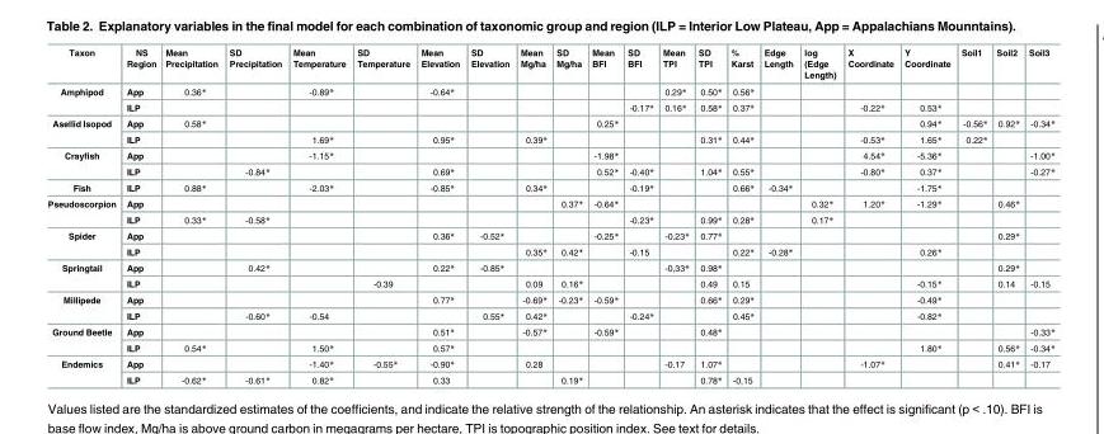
<table><thead><tr><td>Taxon</td><td>NS Region</td><td>Mean Precipitation</td><td>SD Precipitation</td><td>Mean Temperature</td><td>SD Temperature</td><td>Mean Elevation</td><td>SD Elevation</td><td>Mean Mg/ha</td><td>SD Mg/ha</td><td>Mean BFI</td><td>SD BFI</td><td>Mean TPI</td><td>SD TPI</td><td>% Karst</td><td>Edge Length</td><td>log (Edge Length)</td><td>X Coordinate</td><td>Y Coordinate</td><td>Soil1</td><td>Soil2</td><td>Soil3</td></tr></thead><tbody><tr><td rowspan="2">Amphipod</td><td>App</td><td>0.36*</td><td></td><td>-0.89*</td><td></td><td>-0.64*</td><td></td><td></td><td></td><td></td><td></td><td>0.29*</td><td>0.50*</td><td>0.56*</td><td></td><td></td><td></td><td></td><td></td><td></td><td></td></tr><tr><td>ILP</td><td></td><td></td><td></td><td></td><td></td><td></td><td></td><td></td><td></td><td>-0.17*</td><td>0.16*</td><td>0.58*</td><td>0.37*</td><td></td><td></td><td>-0.22*</td><td>0.53*</td><td></td><td></td><td></td></tr><tr><td rowspan="2">Asellid Isopod</td><td>App</td><td>0.58*</td><td></td><td></td><td></td><td></td><td></td><td></td><td></td><td>0.25*</td><td></td><td></td><td></td><td></td><td></td><td></td><td></td><td>0.94*</td><td>-0.56*</td><td>0.92*</td><td>-0.34*</td></tr><tr><td>ILP</td><td></td><td></td><td>1.69*</td><td></td><td>0.95*</td><td></td><td>0.39*</td><td></td><td></td><td></td><td></td><td>0.31*</td><td>0.44*</td><td></td><td></td><td>-0.53*</td><td>1.65*</td><td>0.22*</td><td></td><td></td></tr><tr><td rowspan="2">Crayfish</td><td>App</td><td></td><td></td><td>-1.15*</td><td></td><td></td><td></td><td></td><td></td><td>-1.98*</td><td></td><td></td><td></td><td></td><td></td><td></td><td>4.54*</td><td>-5.36*</td><td></td><td></td><td>-1.00*</td></tr><tr><td>ILP</td><td></td><td>-0.84*</td><td></td><td></td><td>0.69*</td><td></td><td></td><td></td><td>0.52*</td><td>-0.40*</td><td></td><td>1.04*</td><td>0.55*</td><td></td><td></td><td>-0.80*</td><td>0.37*</td><td></td><td></td><td>-0.27*</td></tr><tr><td>Fish</td><td>ILP</td><td>0.88*</td><td></td><td>-2.03*</td><td></td><td>-0.85*</td><td></td><td>0.34*</td><td></td><td></td><td>-0.19*</td><td></td><td></td><td>0.66*</td><td>-0.34*</td><td></td><td></td><td>-1.75*</td><td></td><td></td><td></td></tr><tr><td rowspan="2">Pseudoscorpion</td><td>App</td><td></td><td></td><td></td><td></td><td></td><td></td><td></td><td>0.37*</td><td>-0.64*</td><td></td><td></td><td></td><td></td><td></td><td>0.32*</td><td>1.20*</td><td>-1.29*</td><td></td><td>0.46*</td><td></td></tr><tr><td>ILP</td><td>0.33*</td><td>-0.58*</td><td></td><td></td><td></td><td></td><td></td><td></td><td></td><td>-0.23*</td><td></td><td>0.99*</td><td>0.28*</td><td></td><td>0.17*</td><td></td><td></td><td></td><td></td><td></td></tr><tr><td rowspan="2">Spider</td><td>App</td><td></td><td></td><td></td><td></td><td>0.36*</td><td>-0.52*</td><td></td><td></td><td>-0.25*</td><td></td><td>-0.23*</td><td>0.77*</td><td></td><td></td><td></td><td></td><td></td><td></td><td>0.29*</td><td></td></tr><tr><td>ILP</td><td></td><td></td><td></td><td></td><td></td><td></td><td>0.35*</td><td>0.42*</td><td></td><td>-0.15</td><td></td><td></td><td>0.22*</td><td>-0.28*</td><td></td><td></td><td>0.26*</td><td></td><td></td><td></td></tr><tr><td rowspan="2">Springtail</td><td>App</td><td></td><td>0.42*</td><td></td><td></td><td>0.22*</td><td>-0.85*</td><td></td><td></td><td></td><td></td><td>-0,33*</td><td>0.98*</td><td></td><td></td><td></td><td></td><td></td><td></td><td>0.29*</td><td></td></tr><tr><td>ILP</td><td></td><td></td><td></td><td>-0.39</td><td></td><td></td><td>0.09</td><td>0.16*</td><td></td><td></td><td></td><td>0.49</td><td>0.15</td><td></td><td></td><td></td><td>-0.15*</td><td></td><td>0.14</td><td>-0.15</td></tr><tr><td rowspan="2">Millipede</td><td>App</td><td></td><td></td><td></td><td></td><td>0.77*</td><td></td><td>-0.69*</td><td>-0.23*</td><td>-0.59*</td><td></td><td></td><td>0.66*</td><td>0.29*</td><td></td><td></td><td></td><td>-0.49*</td><td></td><td></td><td></td></tr><tr><td>ILP</td><td></td><td>-0.60*</td><td>-0.54</td><td></td><td></td><td>0.55*</td><td>0.42*</td><td></td><td></td><td>-0.24*</td><td></td><td></td><td>0.45*</td><td></td><td></td><td></td><td>-0.82*</td><td></td><td></td><td></td></tr><tr><td rowspan="2">Ground Beetle</td><td>App</td><td></td><td></td><td></td><td></td><td>0.51*</td><td></td><td>-0.57*</td><td></td><td>-0.59*</td><td></td><td></td><td>0.48*</td><td></td><td></td><td></td><td></td><td></td><td></td><td></td><td>-0.33*</td></tr><tr><td>ILP</td><td>0.54*</td><td></td><td>1.50*</td><td></td><td>0.57*</td><td></td><td></td><td></td><td></td><td></td><td></td><td></td><td></td><td></td><td></td><td></td><td>1.80*</td><td></td><td>0.56*</td><td>-0.34*</td></tr><tr><td rowspan="2">Endemics</td><td>App</td><td></td><td></td><td>-1.40*</td><td>-0.55*</td><td>-0.90*</td><td></td><td>0.28</td><td></td><td></td><td></td><td>-0.17</td><td>1.07*</td><td></td><td></td><td></td><td>-1.07*</td><td></td><td></td><td>0.41*</td><td>-0.17</td></tr><tr><td>ILP</td><td>-0.62*</td><td>-0.61*</td><td>0.82*</td><td></td><td>0.33</td><td></td><td></td><td>0.19*</td><td></td><td></td><td></td><td>0.78*</td><td>-0,15</td><td></td><td></td><td></td><td></td><td></td><td></td><td></td></tr></tbody></table>